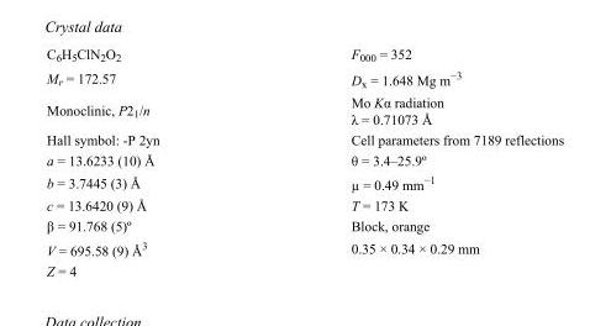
<table><tbody><tr><td>C<sub>6</sub>H<sub>5</sub>ClN<sub>2</sub>O<sub>2</sub></td><td>F000 = 352</td></tr><tr><td>M<sub>r</sub> = 172.57</td><td>D<sub>x</sub> = 1.648 Mg m<sup>−3</sup></td></tr><tr><td>Monoclinic, P2<sub>1</sub>/n</td><td>Mo Kα radiation λ = 0.71073 Å</td></tr><tr><td>Hall symbol: -P 2yn</td><td>Cell parameters from 7189 reflections</td></tr><tr><td>a = 13.6233 (10) Å</td><td>θ = 3.4–25.9º</td></tr><tr><td>b = 3.7445 (3) Å</td><td>µ = 0.49 mm<sup>−1</sup></td></tr><tr><td>c = 13.6420 (9) Å</td><td>T = 173 K</td></tr><tr><td>β = 91.768 (5)º</td><td>Block, orange</td></tr><tr><td>V = 695.58 (9) Å<sup>3</sup></td><td>0.35 × 0.34 × 0.29 mm</td></tr><tr><td>Z = 4</td><td></td></tr></tbody></table>